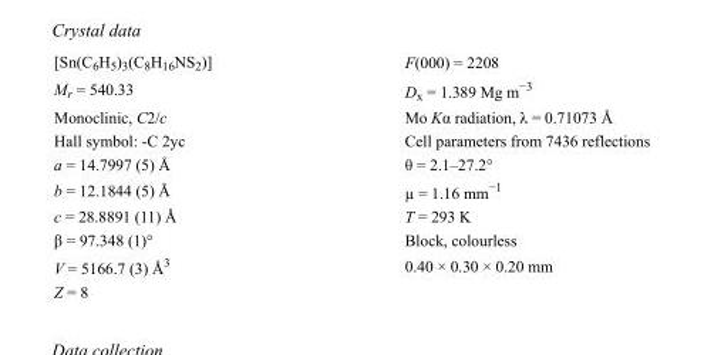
<table><tbody><tr><td>[Sn(C<sub>6</sub>H<sub>5</sub>)<sub>3</sub>(C<sub>8</sub>H<sub>16</sub>NS<sub>2</sub>)]</td><td>F(000) = 2208</td></tr><tr><td>M<sub>r</sub> = 540.33</td><td>D<sub>x</sub> = 1.389 Mg m<sup>−3</sup></td></tr><tr><td>Monoclinic, C2/c</td><td>Mo Kα radiation, λ = 0.71073 Å</td></tr><tr><td>Hall symbol: -C 2yc</td><td>Cell parameters from 7436 reflections</td></tr><tr><td>a = 14.7997 (5) Å</td><td>θ = 2.1–27.2°</td></tr><tr><td>b = 12.1844 (5) Å</td><td>µ = 1.16 mm<sup>−1</sup></td></tr><tr><td>c = 28.8891 (11) Å</td><td>T = 293 K</td></tr><tr><td>β = 97.348 (1)°</td><td>Block, colourless</td></tr><tr><td>V = 5166.7 (3) Å<sup>3</sup></td><td>0.40 × 0.30 × 0.20 mm</td></tr><tr><td>Z = 8</td><td></td></tr></tbody></table>